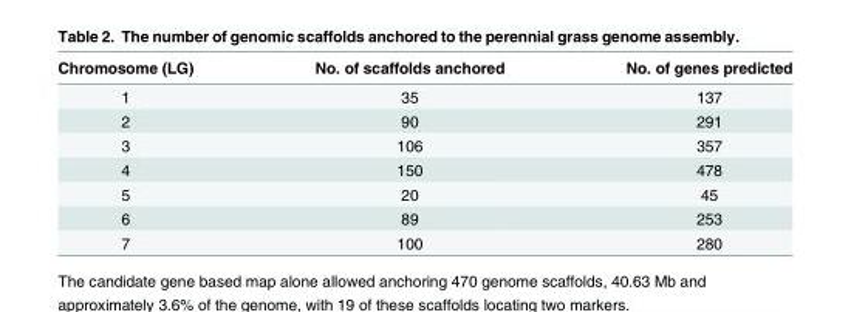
<table><thead><tr><td>Chromosome (LG)</td><td>No. of scaffolds anchored</td><td>No. of genes predicted</td></tr></thead><tbody><tr><td>1</td><td>35</td><td>137</td></tr><tr><td>2</td><td>90</td><td>291</td></tr><tr><td>3</td><td>106</td><td>357</td></tr><tr><td>4</td><td>150</td><td>478</td></tr><tr><td>5</td><td>20</td><td>45</td></tr><tr><td>6</td><td>89</td><td>253</td></tr><tr><td>7</td><td>100</td><td>280</td></tr></tbody></table>